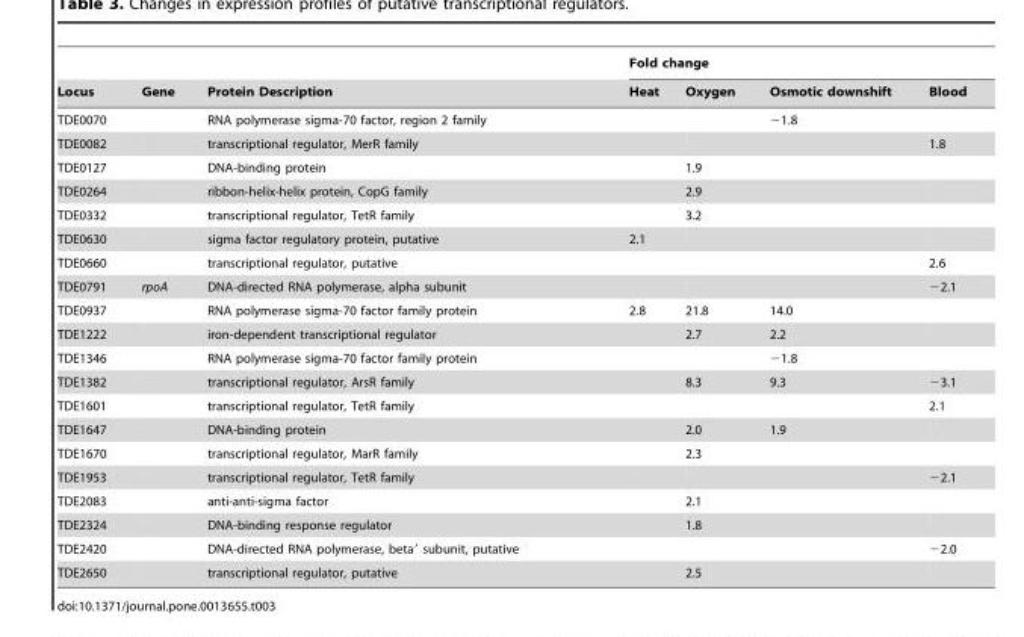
<table><thead><tr><td rowspan="2">Locus</td><td rowspan="2">Gene</td><td rowspan="2">Protein Description</td><td colspan="4">Fold change</td></tr><tr><td>Heat</td><td>Oxygen</td><td>Osmotic downshift</td><td>Blood</td></tr></thead><tbody><tr><td>TDE0070</td><td></td><td>RNA polymerase sigma-70 factor, region 2 family</td><td></td><td></td><td>−1.8</td><td></td></tr><tr><td>TDE0082</td><td></td><td>transcriptional regulator, MerR family</td><td></td><td></td><td></td><td>1.8</td></tr><tr><td>TDE0127</td><td></td><td>DNA-binding protein</td><td></td><td>1.9</td><td></td><td></td></tr><tr><td>TDE0264</td><td></td><td>ribbon-helix-helix protein, CopG family</td><td></td><td>2.9</td><td></td><td></td></tr><tr><td>TDE0332</td><td></td><td>transcriptional regulator, TetR family</td><td></td><td>3.2</td><td></td><td></td></tr><tr><td>TDE0630</td><td></td><td>sigma factor regulatory protein, putative</td><td>2.1</td><td></td><td></td><td></td></tr><tr><td>TDE0660</td><td></td><td>transcriptional regulator, putative</td><td></td><td></td><td></td><td>2.6</td></tr><tr><td>TDE0791</td><td>rpoA</td><td>DNA-directed RNA polymerase, alpha subunit</td><td></td><td></td><td></td><td>−2.1</td></tr><tr><td>TDE0937</td><td></td><td>RNA polymerase sigma-70 factor family protein</td><td>2.8</td><td>21.8</td><td>14.0</td><td></td></tr><tr><td>TDE1222</td><td></td><td>iron-dependent transcriptional regulator</td><td></td><td>2.7</td><td>2.2</td><td></td></tr><tr><td>TDE1346</td><td></td><td>RNA polymerase sigma-70 factor family protein</td><td></td><td></td><td>−1.8</td><td></td></tr><tr><td>TDE1382</td><td></td><td>transcriptional regulator, ArsR family</td><td></td><td>8.3</td><td>9.3</td><td>−3.1</td></tr><tr><td>TDE1601</td><td></td><td>transcriptional regulator, TetR family</td><td></td><td></td><td></td><td>2.1</td></tr><tr><td>TDE1647</td><td></td><td>DNA-binding protein</td><td></td><td>2.0</td><td>1.9</td><td></td></tr><tr><td>TDE1670</td><td></td><td>transcriptional regulator, MarR family</td><td></td><td>2.3</td><td></td><td></td></tr><tr><td>TDE1953</td><td></td><td>transcriptional regulator, TetR family</td><td></td><td></td><td></td><td>−2.1</td></tr><tr><td>TDE2083</td><td></td><td>anti-anti-sigma factor</td><td></td><td>2.1</td><td></td><td></td></tr><tr><td>TDE2324</td><td></td><td>DNA-binding response regulator</td><td></td><td>1.8</td><td></td><td></td></tr><tr><td>TDE2420</td><td></td><td>DNA-directed RNA polymerase, beta′ subunit, putative</td><td></td><td></td><td></td><td>−2.0</td></tr><tr><td>TDE2650</td><td></td><td>transcriptional regulator, putative</td><td></td><td>2.5</td><td></td><td></td></tr></tbody></table>